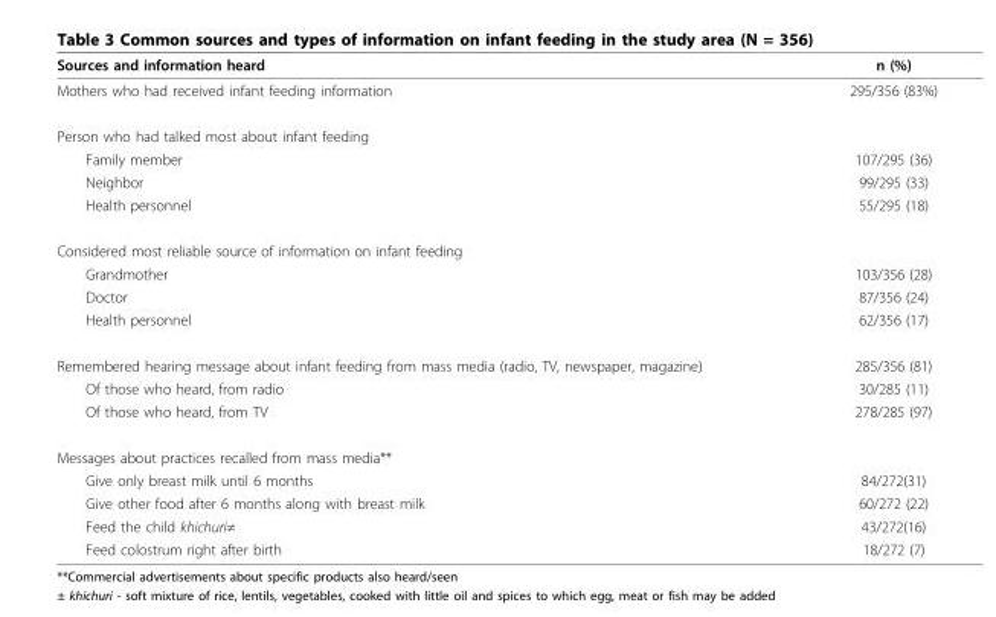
<table><thead><tr><td>Sources and information heard</td><td>n (%)</td></tr></thead><tbody><tr><td>Mothers who had received infant feeding information</td><td>295/356 (83%)</td></tr><tr><td colspan="2">Person who had talked most about infant feeding</td></tr><tr><td>Family member</td><td>107/295 (36)</td></tr><tr><td>Neighbor</td><td>99/295 (33)</td></tr><tr><td>Health personnel</td><td>55/295 (18)</td></tr><tr><td colspan="2">Considered most reliable source of information on infant feeding</td></tr><tr><td>Grandmother</td><td>103/356 (28)</td></tr><tr><td>Doctor</td><td>87/356 (24)</td></tr><tr><td>Health personnel</td><td>62/356 (17)</td></tr><tr><td>Remembered hearing message about infant feeding from mass media (radio, TV, newspaper, magazine)</td><td>285/356 (81)</td></tr><tr><td>Of those who heard, from radio</td><td>30/285 (11)</td></tr><tr><td>Of those who heard, from TV</td><td>278/285 (97)</td></tr><tr><td colspan="2">Messages about practices recalled from mass media**</td></tr><tr><td>Give only breast milk until 6 months</td><td>84/272(31)</td></tr><tr><td>Give other food after 6 months along with breast milk</td><td>60/272 (22)</td></tr><tr><td>Feed the child khichuri≠</td><td>43/272(16)</td></tr><tr><td>Feed colostrum right after birth</td><td>18/272 (7)</td></tr></tbody></table>